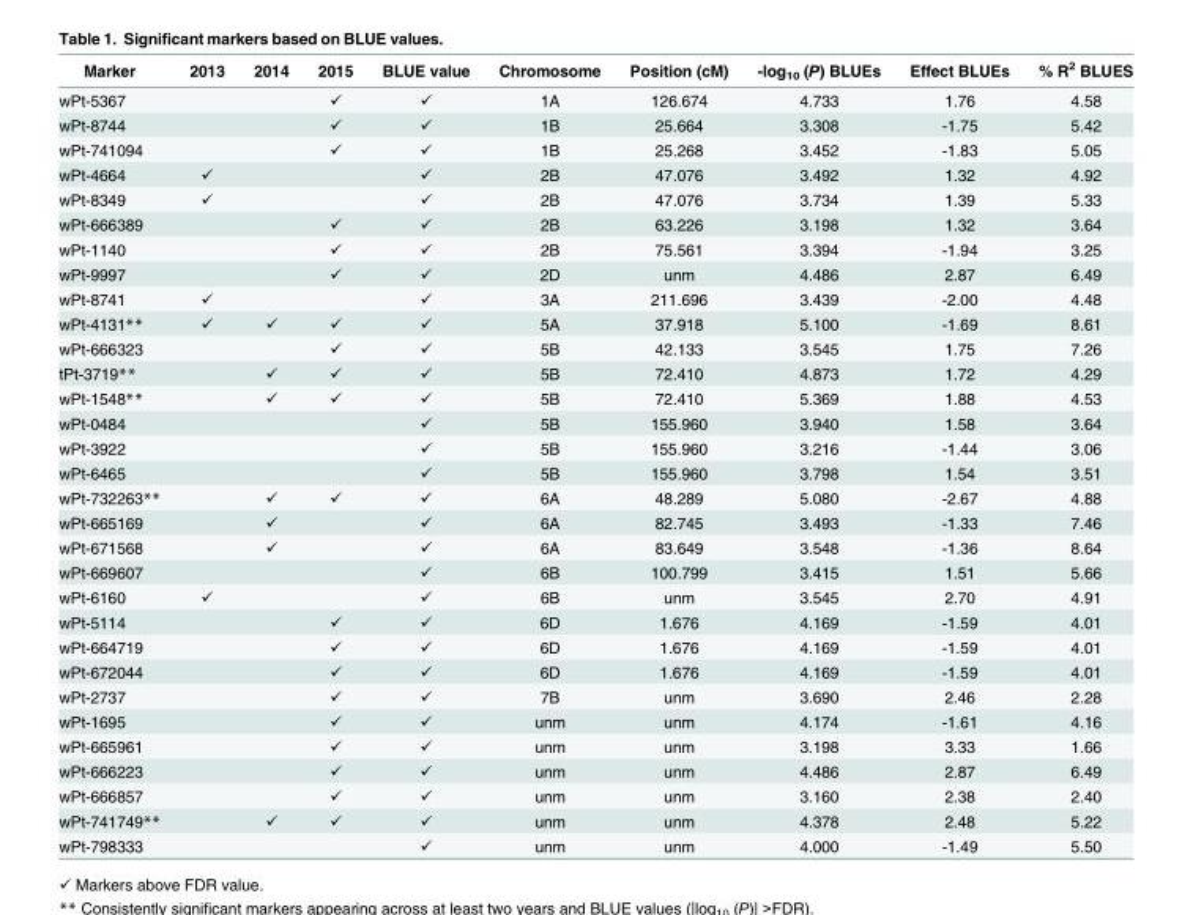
<table><thead><tr><td>Marker</td><td>2013</td><td>2014</td><td>2015</td><td>BLUE value</td><td>Chromosome</td><td>Position (cM)</td><td>-log<sub>10</sub> (P) BLUEs</td><td>Effect BLUEs</td><td>% R<sup>2</sup> BLUES</td></tr></thead><tbody><tr><td>wPt-5367</td><td></td><td></td><td>✓</td><td>✓</td><td>1A</td><td>126.674</td><td>4.733</td><td>1.76</td><td>4.58</td></tr><tr><td>wPt-8744</td><td></td><td></td><td>✓</td><td>✓</td><td>1B</td><td>25.664</td><td>3.308</td><td>-1.75</td><td>5.42</td></tr><tr><td>wPt-741094</td><td></td><td></td><td>✓</td><td>✓</td><td>1B</td><td>25.268</td><td>3.452</td><td>-1.83</td><td>5.05</td></tr><tr><td>wPt-4664</td><td>✓</td><td></td><td></td><td>✓</td><td>2B</td><td>47.076</td><td>3.492</td><td>1.32</td><td>4.92</td></tr><tr><td>wPt-8349</td><td>✓</td><td></td><td></td><td>✓</td><td>2B</td><td>47.076</td><td>3.734</td><td>1.39</td><td>5.33</td></tr><tr><td>wPt-666389</td><td></td><td></td><td>✓</td><td>✓</td><td>2B</td><td>63.226</td><td>3.198</td><td>1.32</td><td>3.64</td></tr><tr><td>wPt-1140</td><td></td><td></td><td>✓</td><td>✓</td><td>2B</td><td>75.561</td><td>3.394</td><td>-1.94</td><td>3.25</td></tr><tr><td>wPt-9997</td><td></td><td></td><td>✓</td><td>✓</td><td>2D</td><td>unm</td><td>4.486</td><td>2.87</td><td>6.49</td></tr><tr><td>wPt-8741</td><td>✓</td><td></td><td></td><td>✓</td><td>3A</td><td>211.696</td><td>3.439</td><td>-2.00</td><td>4.48</td></tr><tr><td>wPt-4131**</td><td>✓</td><td>✓</td><td>✓</td><td>✓</td><td>5A</td><td>37.918</td><td>5.100</td><td>-1.69</td><td>8.61</td></tr><tr><td>wPt-666323</td><td></td><td></td><td>✓</td><td>✓</td><td>5B</td><td>42.133</td><td>3.545</td><td>1.75</td><td>7.26</td></tr><tr><td>tPt-3719**</td><td></td><td>✓</td><td>✓</td><td>✓</td><td>5B</td><td>72.410</td><td>4.873</td><td>1.72</td><td>4.29</td></tr><tr><td>wPt-1548**</td><td></td><td>✓</td><td>✓</td><td>✓</td><td>5B</td><td>72.410</td><td>5.369</td><td>1.88</td><td>4.53</td></tr><tr><td>wPt-0484</td><td></td><td></td><td></td><td>✓</td><td>5B</td><td>155.960</td><td>3.940</td><td>1.58</td><td>3.64</td></tr><tr><td>wPt-3922</td><td></td><td></td><td></td><td>✓</td><td>5B</td><td>155.960</td><td>3.216</td><td>-1.44</td><td>3.06</td></tr><tr><td>wPt-6465</td><td></td><td></td><td></td><td>✓</td><td>5B</td><td>155.960</td><td>3.798</td><td>1.54</td><td>3.51</td></tr><tr><td>wPt-732263**</td><td></td><td>✓</td><td>✓</td><td>✓</td><td>6A</td><td>48.289</td><td>5.080</td><td>-2.67</td><td>4.88</td></tr><tr><td>wPt-665169</td><td></td><td>✓</td><td></td><td>✓</td><td>6A</td><td>82.745</td><td>3.493</td><td>-1.33</td><td>7.46</td></tr><tr><td>wPt-671568</td><td></td><td>✓</td><td></td><td>✓</td><td>6A</td><td>83.649</td><td>3.548</td><td>-1.36</td><td>8.64</td></tr><tr><td>wPt-669607</td><td></td><td></td><td></td><td>✓</td><td>6B</td><td>100.799</td><td>3.415</td><td>1.51</td><td>5.66</td></tr><tr><td>wPt-6160</td><td>✓</td><td></td><td></td><td>✓</td><td>6B</td><td>unm</td><td>3.545</td><td>2.70</td><td>4.91</td></tr><tr><td>wPt-5114</td><td></td><td></td><td>✓</td><td>✓</td><td>6D</td><td>1.676</td><td>4.169</td><td>-1.59</td><td>4.01</td></tr><tr><td>wPt-664719</td><td></td><td></td><td>✓</td><td>✓</td><td>6D</td><td>1.676</td><td>4.169</td><td>-1.59</td><td>4.01</td></tr><tr><td>wPt-672044</td><td></td><td></td><td>✓</td><td>✓</td><td>6D</td><td>1.676</td><td>4.169</td><td>-1.59</td><td>4.01</td></tr><tr><td>wPt-2737</td><td></td><td></td><td>✓</td><td>✓</td><td>7B</td><td>unm</td><td>3.690</td><td>2.46</td><td>2.28</td></tr><tr><td>wPt-1695</td><td></td><td></td><td>✓</td><td>✓</td><td>unm</td><td>unm</td><td>4.174</td><td>-1.61</td><td>4.16</td></tr><tr><td>wPt-665961</td><td></td><td></td><td>✓</td><td>✓</td><td>unm</td><td>unm</td><td>3.198</td><td>3.33</td><td>1.66</td></tr><tr><td>wPt-666223</td><td></td><td></td><td>✓</td><td>✓</td><td>unm</td><td>unm</td><td>4.486</td><td>2.87</td><td>6.49</td></tr><tr><td>wPt-666857</td><td></td><td></td><td>✓</td><td>✓</td><td>unm</td><td>unm</td><td>3.160</td><td>2.38</td><td>2.40</td></tr><tr><td>wPt-741749**</td><td></td><td>✓</td><td>✓</td><td>✓</td><td>unm</td><td>unm</td><td>4.378</td><td>2.48</td><td>5.22</td></tr><tr><td>wPt-798333</td><td></td><td></td><td></td><td>✓</td><td>unm</td><td>unm</td><td>4.000</td><td>-1.49</td><td>5.50</td></tr></tbody></table>